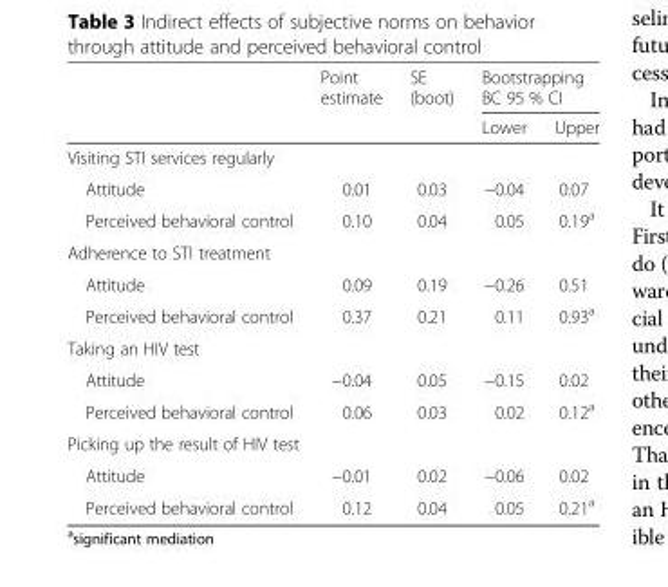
<table><thead><tr><td rowspan="2"></td><td rowspan="2">Point estimate</td><td rowspan="2">SE (boot)</td><td colspan="2">Bootstrapping BC 95 % CI</td></tr><tr><td>Lower</td><td>Upper</td></tr></thead><tbody><tr><td colspan="5">Visiting STI services regularly</td></tr><tr><td>Attitude</td><td>0.01</td><td>0.03</td><td>−0.04</td><td>0.07</td></tr><tr><td>Perceived behavioral control</td><td>0.10</td><td>0.04</td><td>0.05</td><td>0.19<sup>a</sup></td></tr><tr><td colspan="5">Adherence to STI treatment</td></tr><tr><td>Attitude</td><td>0.09</td><td>0.19</td><td>−0.26</td><td>0.51</td></tr><tr><td>Perceived behavioral control</td><td>0.37</td><td>0.21</td><td>0.11</td><td>0.93<sup>a</sup></td></tr><tr><td colspan="5">Taking an HIV test</td></tr><tr><td>Attitude</td><td>−0.04</td><td>0.05</td><td>−0.15</td><td>0.02</td></tr><tr><td>Perceived behavioral control</td><td>0.06</td><td>0.03</td><td>0.02</td><td>0.12<sup>a</sup></td></tr><tr><td colspan="5">Picking up the result of HIV test</td></tr><tr><td>Attitude</td><td>−0.01</td><td>0.02</td><td>−0.06</td><td>0.02</td></tr><tr><td>Perceived behavioral control</td><td>0.12</td><td>0.04</td><td>0.05</td><td>0.21<sup>a</sup></td></tr></tbody></table>